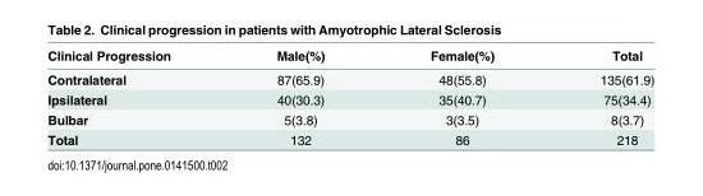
<table><thead><tr><td>Clinical Progression</td><td>Male(%)</td><td>Female(%)</td><td>Total</td></tr></thead><tbody><tr><td>Contralateral</td><td>87(65.9)</td><td>48(55.8)</td><td>135(61.9)</td></tr><tr><td>Ipsilateral</td><td>40(30.3)</td><td>35(40.7)</td><td>75(34.4)</td></tr><tr><td>Bulbar</td><td>5(3.8)</td><td>3(3.5)</td><td>8(3.7)</td></tr><tr><td>Total</td><td>132</td><td>86</td><td>218</td></tr></tbody></table>